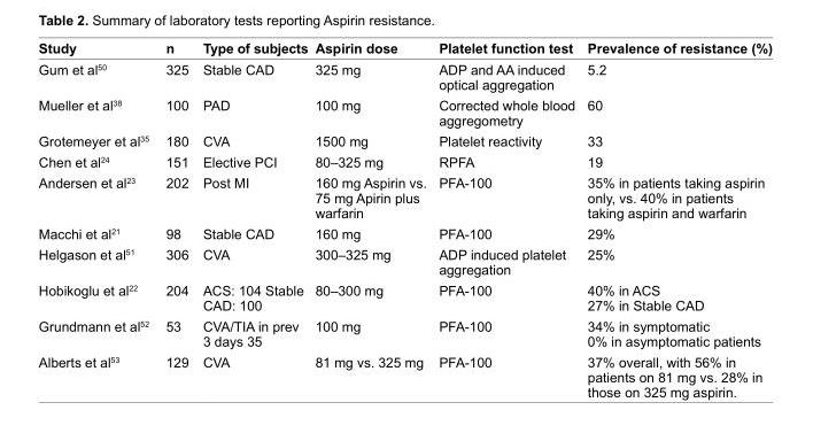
<table><thead><tr><td>study</td><td>n</td><td>Type of subjects</td><td>Aspirin dose</td><td>platelet function test</td><td>prevalence of resistance (%)</td></tr></thead><tbody><tr><td>Gum et al<sup>50</sup></td><td>325</td><td>Stable CAD</td><td>325 mg</td><td>ADP and AA induced optical aggregation</td><td>5.2</td></tr><tr><td>Mueller et al<sup>38</sup></td><td>100</td><td>PAD</td><td>100 mg</td><td>Corrected whole blood aggregometry</td><td>60</td></tr><tr><td>Grotemeyer et al<sup>35</sup></td><td>180</td><td>CvA</td><td>1500 mg</td><td>Platelet reactivity</td><td>33</td></tr><tr><td>Chen et al<sup>24</sup></td><td>151</td><td>elective PCi</td><td>80–325 mg</td><td>RPFA</td><td>19</td></tr><tr><td>Andersen et al<sup>23</sup></td><td>202</td><td>Post Mi</td><td>160 mg Aspirin vs. 75 mg Apirin plus warfarin</td><td>PFA-100</td><td>35% in patients taking aspirin only, vs. 40% in patients taking aspirin and warfarin</td></tr><tr><td>Macchi et al<sup>21</sup></td><td>98</td><td>Stable CAD</td><td>160 mg</td><td>PFA-100</td><td>29%</td></tr><tr><td>Helgason et al<sup>51</sup></td><td>306</td><td>CvA</td><td>300–325 mg</td><td>ADP induced platelet aggregation</td><td>25%</td></tr><tr><td>Hobikoglu et al<sup>22</sup></td><td>204</td><td>ACS: 104 Stable CAD: 100</td><td>80–300 mg</td><td>PFA-100</td><td>40% in ACS 27% in Stable CAD</td></tr><tr><td>Grundmann et al<sup>52</sup></td><td>53</td><td>CvA/TiA in prev 3 days 35</td><td>100 mg</td><td>PFA-100</td><td>34% in symptomatic 0% in asymptomatic patients</td></tr><tr><td>Alberts et al<sup>53</sup></td><td>129</td><td>CvA</td><td>81 mg vs. 325 mg</td><td>PFA-100</td><td>37% overall, with 56% in patients on 81 mg vs. 28% in those on 325 mg aspirin.</td></tr></tbody></table>